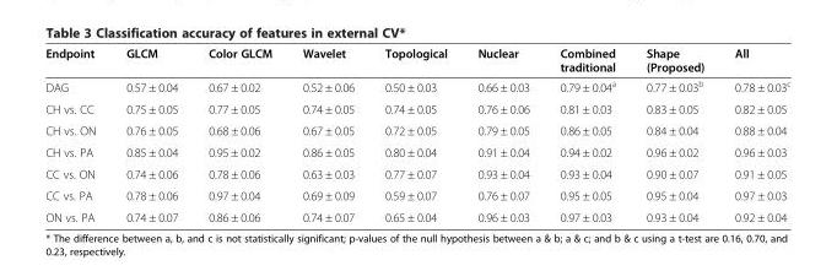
<table><thead><tr><td>Endpoint</td><td>GLCM</td><td>Color GLCM</td><td>Wavelet</td><td>Topological</td><td>Nuclear</td><td>Combined traditional</td><td>Shape (Proposed)</td><td>All</td></tr></thead><tbody><tr><td>DAG</td><td>0.57 ± 0.04</td><td>0.67 ± 0.02</td><td>0.52 ± 0.06</td><td>0.50 ± 0.03</td><td>0.66 ± 0.03</td><td>0.79 ± 0.04<sup>a</sup></td><td>0.77 ± 0.03<sup>b</sup></td><td>0.78 ± 0.03<sup>c</sup></td></tr><tr><td>CH vs. CC</td><td>0.75 ± 0.05</td><td>0.77 ± 0.05</td><td>0.74 ± 0.05</td><td>0.74 ± 0.05</td><td>0.76 ± 0.06</td><td>0.81 ± 0.03</td><td>0.83 ± 0.05</td><td>0.82 ± 0.05</td></tr><tr><td>CH vs. ON</td><td>0.76 ± 0.05</td><td>0.68 ± 0.06</td><td>0.67 ± 0.05</td><td>0.72 ± 0.05</td><td>0.79 ± 0.05</td><td>0.86 ± 0.05</td><td>0.84 ± 0.04</td><td>0.88 ± 0.04</td></tr><tr><td>CH vs. PA</td><td>0.85 ± 0.04</td><td>0.95 ± 0.02</td><td>0.86 ± 0.05</td><td>0.80 ± 0.04</td><td>0.91 ± 0.04</td><td>0.94 ± 0.02</td><td>0.96 ± 0.02</td><td>0.96 ± 0.03</td></tr><tr><td>CC vs. ON</td><td>0.74 ± 0.06</td><td>0.78 ± 0.06</td><td>0.63 ± 0.03</td><td>0.77 ± 0.07</td><td>0.93 ± 0.04</td><td>0.93 ± 0.04</td><td>0.90 ± 0.07</td><td>0.91 ± 0.05</td></tr><tr><td>CC vs. PA</td><td>0.78 ± 0.06</td><td>0.97 ± 0.04</td><td>0.69 ± 0.09</td><td>0.59 ± 0.07</td><td>0.76 ± 0.07</td><td>0.95 ± 0.05</td><td>0.95 ± 0.04</td><td>0.97 ± 0.03</td></tr><tr><td>ON vs. PA</td><td>0.74 ± 0.07</td><td>0.86 ± 0.06</td><td>0.74 ± 0.07</td><td>0.65 ± 0.04</td><td>0.96 ± 0.03</td><td>0.97 ± 0.03</td><td>0.93 ± 0.04</td><td>0.92 ± 0.04</td></tr></tbody></table>